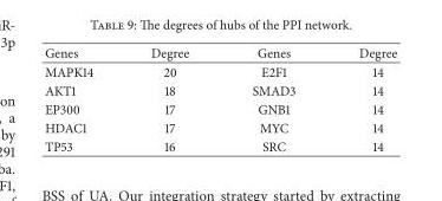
<table><thead><tr><td>Genes</td><td>Degree</td><td>Genes</td><td>Degree</td></tr></thead><tbody><tr><td>MAPK14</td><td>20</td><td>E2F1</td><td>14</td></tr><tr><td>AKT1</td><td>18</td><td>SMAD3</td><td>14</td></tr><tr><td>EP300</td><td>17</td><td>GNB1</td><td>14</td></tr><tr><td>HDAC1</td><td>17</td><td>MYC</td><td>14</td></tr><tr><td>TP53</td><td>16</td><td>SRC</td><td>14</td></tr></tbody></table>